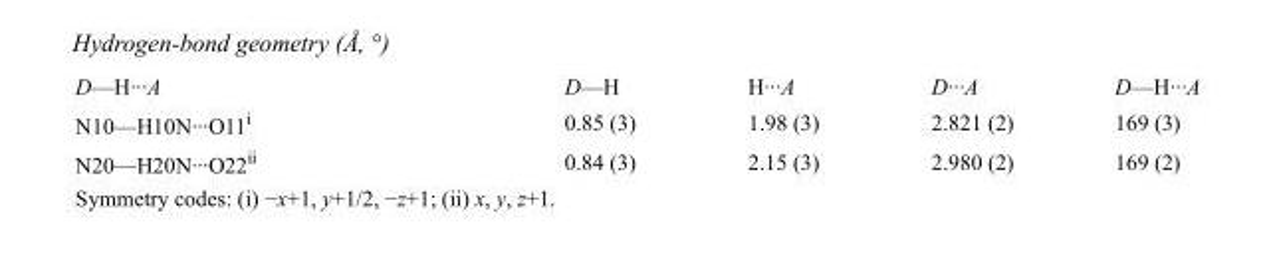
<table><tbody><tr><td>D—H···A</td><td>D—H</td><td>H···A</td><td>D···A</td><td>D—H···A</td></tr><tr><td>N10—H10N···O11<sup>i</sup></td><td>0.85 (3)</td><td>1.98 (3)</td><td>2.821 (2)</td><td>169 (3)</td></tr><tr><td>N20—H20N···O22<sup>ii</sup></td><td>0.84 (3)</td><td>2.15 (3)</td><td>2.980 (2)</td><td>169 (2)</td></tr></tbody></table>